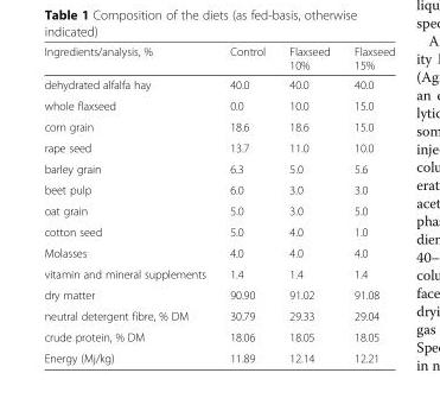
<table><thead><tr><td>Ingredients/analysis, %</td><td>Control</td><td>Flaxseed 10%</td><td>Flaxseed 15%</td></tr></thead><tbody><tr><td>dehydrated alfalfa hay</td><td>40.0</td><td>40.0</td><td>40.0</td></tr><tr><td>whole flaxseed</td><td>0.0</td><td>10.0</td><td>15.0</td></tr><tr><td>corn grain</td><td>18.6</td><td>18.6</td><td>15.0</td></tr><tr><td>rape seed</td><td>13.7</td><td>11.0</td><td>10.0</td></tr><tr><td>barley grain</td><td>6.3</td><td>5.0</td><td>5.6</td></tr><tr><td>beet pulp</td><td>6.0</td><td>3.0</td><td>3.0</td></tr><tr><td>oat grain</td><td>5.0</td><td>3.0</td><td>5.0</td></tr><tr><td>cotton seed</td><td>5.0</td><td>4.0</td><td>1.0</td></tr><tr><td>Molasses</td><td>4.0</td><td>4.0</td><td>4.0</td></tr><tr><td>vitamin and mineral supplements</td><td>1.4</td><td>1.4</td><td>1.4</td></tr><tr><td>dry matter</td><td>90.90</td><td>91.02</td><td>91.08</td></tr><tr><td>neutral detergent fibre, % DM</td><td>30.79</td><td>29.33</td><td>29.04</td></tr><tr><td>crude protein, % DM</td><td>18.06</td><td>18.05</td><td>18.05</td></tr><tr><td>Energy (Mj/kg)</td><td>11.89</td><td>12.14</td><td>12.21</td></tr></tbody></table>